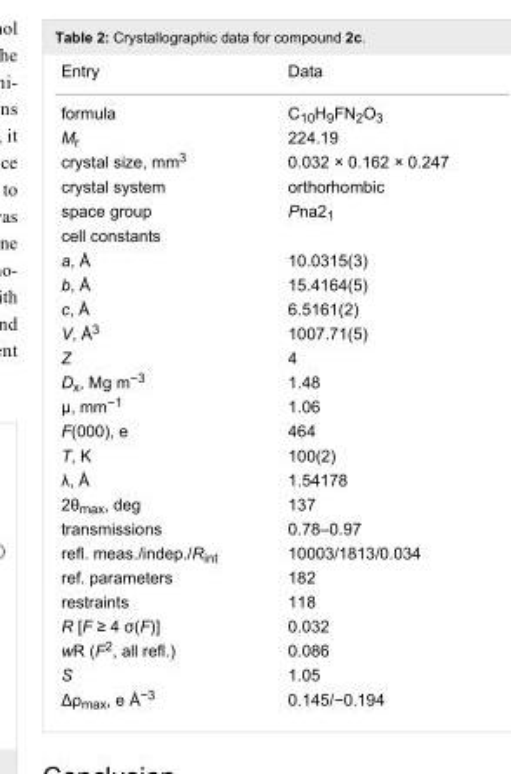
<table><tbody><tr><td>Entry</td><td>Data</td></tr><tr><td>formula</td><td>C<sub>10</sub>H<sub>9</sub>FN<sub>2</sub>O<sub>3</sub></td></tr><tr><td>M<sub>r</sub></td><td>224.19</td></tr><tr><td>crystal size, mm<sup>3</sup></td><td>0.032 × 0.162 × 0.247</td></tr><tr><td>crystal system</td><td>orthorhombic</td></tr><tr><td>space group</td><td>Pna2<sub>1</sub></td></tr><tr><td colspan="2">cell constants</td></tr><tr><td>a, Å</td><td>10.0315(3)</td></tr><tr><td>b, Å</td><td>15.4164(5)</td></tr><tr><td>c, Å</td><td>6.5161(2)</td></tr><tr><td>V, Å<sup>3</sup></td><td>1007.71(5)</td></tr><tr><td>Z</td><td>4</td></tr><tr><td>D<sub>x</sub>, Mg m<sup>−3</sup></td><td>1.48</td></tr><tr><td>μ, mm<sup>−1</sup></td><td>1.06</td></tr><tr><td>F(000), e</td><td>464</td></tr><tr><td>T, K</td><td>100(2)</td></tr><tr><td>λ, Å</td><td>1.54178</td></tr><tr><td>2θ<sub>max</sub>, deg</td><td>137</td></tr><tr><td>transmissions</td><td>0.78–0.97</td></tr><tr><td>refl. meas./indep./R<sub>int</sub></td><td>10003/1813/0.034</td></tr><tr><td>ref. parameters</td><td>182</td></tr><tr><td>restraints</td><td>118</td></tr><tr><td>R [F ≥ 4 σ(F)]</td><td>0.032</td></tr><tr><td>wR (F<sup>2</sup>, all refl.)</td><td>0.086</td></tr><tr><td>S</td><td>1.05</td></tr><tr><td>Δρ<sub>max</sub>, e Å<sup>−3</sup></td><td>0.145/−0.194</td></tr></tbody></table>